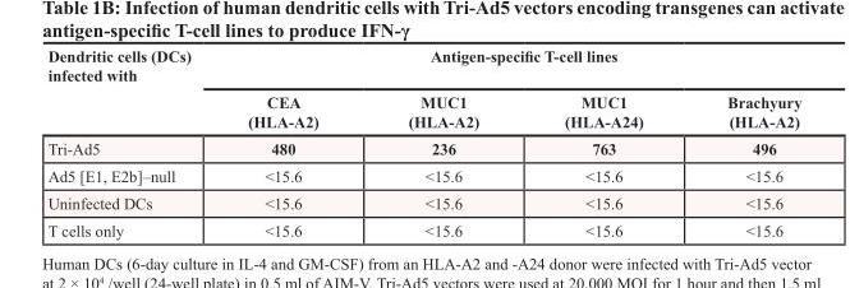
<table><thead><tr><td rowspan="2">Dendritic cells (DCs) infected with</td><td colspan="4">Antigen-specific T-cell lines</td></tr><tr><td>CEA (HLA-A2)</td><td>MUC1 (HLA-A2)</td><td>MUC1 (HLA-A24)</td><td>Brachyury (HLA-A2)</td></tr></thead><tbody><tr><td>Tri-Ad5</td><td>480</td><td>236</td><td>763</td><td>496</td></tr><tr><td>Ad5 [E1, E2b]–null</td><td>&lt;15.6</td><td>&lt;15.6</td><td>&lt;15.6</td><td>&lt;15.6</td></tr><tr><td>Uninfected DCs</td><td>&lt;15.6</td><td>&lt;15.6</td><td>&lt;15.6</td><td>&lt;15.6</td></tr><tr><td>T cells only</td><td>&lt;15.6</td><td>&lt;15.6</td><td>&lt;15.6</td><td>&lt;15.6</td></tr></tbody></table>